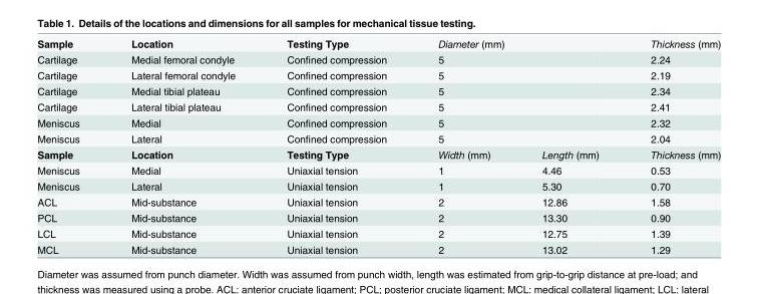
<table><tbody><tr><td>Sample</td><td>Location</td><td>Testing Type</td><td colspan="2">Diameter (mm)</td><td>Thickness (mm)</td></tr><tr><td>Cartilage</td><td>Medial femoral condyle</td><td>Confined compression</td><td colspan="2">5</td><td>2.24</td></tr><tr><td>Cartilage</td><td>Lateral femoral condyle</td><td>Confined compression</td><td colspan="2">5</td><td>2.19</td></tr><tr><td>Cartilage</td><td>Medial tibial plateau</td><td>Confined compression</td><td colspan="2">5</td><td>2.34</td></tr><tr><td>Cartilage</td><td>Lateral tibial plateau</td><td>Confined compression</td><td colspan="2">5</td><td>2.41</td></tr><tr><td>Meniscus</td><td>Medial</td><td>Confined compression</td><td colspan="2">5</td><td>2.32</td></tr><tr><td>Meniscus</td><td>Lateral</td><td>Confined compression</td><td colspan="2">5</td><td>2.04</td></tr><tr><td>Sample</td><td>Location</td><td>Testing Type</td><td>Width (mm)</td><td>Length (mm)</td><td>Thickness (mm)</td></tr><tr><td>Meniscus</td><td>Medial</td><td>Uniaxial tension</td><td>1</td><td>4.46</td><td>0.53</td></tr><tr><td>Meniscus</td><td>Lateral</td><td>Uniaxial tension</td><td>1</td><td>5.30</td><td>0.70</td></tr><tr><td>ACL</td><td>Mid-substance</td><td>Uniaxial tension</td><td>2</td><td>12.86</td><td>1.58</td></tr><tr><td>PCL</td><td>Mid-substance</td><td>Uniaxial tension</td><td>2</td><td>13.30</td><td>0.90</td></tr><tr><td>LCL</td><td>Mid-substance</td><td>Uniaxial tension</td><td>2</td><td>12.75</td><td>1.39</td></tr><tr><td>MCL</td><td>Mid-substance</td><td>Uniaxial tension</td><td>2</td><td>13.02</td><td>1.29</td></tr></tbody></table>